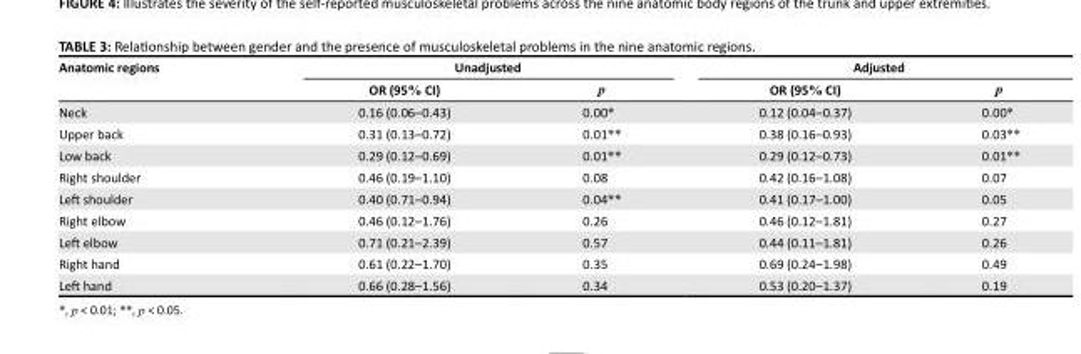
<table><thead><tr><td rowspan="2">Anatomic regions</td><td colspan="2">Unadjusted</td><td colspan="2">Adjusted</td></tr><tr><td>OR (95% CI)</td><td>p</td><td>OR (95% CI)</td><td>p</td></tr></thead><tbody><tr><td>Neck</td><td>0.16 (0.06–0.43)</td><td>0.00*</td><td>0.12 (0.04–0.37)</td><td>0.00*</td></tr><tr><td>Upper back</td><td>0.31 (0.13–0.72)</td><td>0.01**</td><td>0.38 (0.16–0.93)</td><td>0.03**</td></tr><tr><td>Low back</td><td>0.29 (0.12–0.69)</td><td>0.01**</td><td>0.29 (0.12–0.73)</td><td>0.01**</td></tr><tr><td>Right shoulder</td><td>0.46 (0.19–1.10)</td><td>0.08</td><td>0.42 (0.16–1.08)</td><td>0.07</td></tr><tr><td>Left shoulder</td><td>0.40 (0.71–0.94)</td><td>0.04**</td><td>0.41 (0.17–1.00)</td><td>0.05</td></tr><tr><td>Right elbow</td><td>0.46 (0.12–1.76)</td><td>0.26</td><td>0.46 (0.12–1.81)</td><td>0.27</td></tr><tr><td>Left elbow</td><td>0.71 (0.21–2.39)</td><td>0.57</td><td>0.44 (0.11–1.81)</td><td>0.26</td></tr><tr><td>Right hand</td><td>0.61 (0.22–1.70)</td><td>0.35</td><td>0.69 (0.24–1.98)</td><td>0.49</td></tr><tr><td>Left hand</td><td>0.66 (0.28–1.56)</td><td>0.34</td><td>0.53 (0.20–1.37)</td><td>0.19</td></tr></tbody></table>